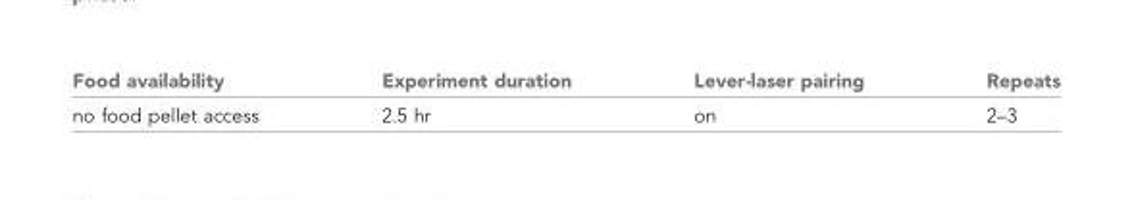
<table><thead><tr><td>Food availability</td><td>Experiment duration</td><td>Lever-laser pairing</td><td>Repeats</td></tr></thead><tbody><tr><td>no food pellet access</td><td>2.5 hr</td><td>on</td><td>2–3</td></tr></tbody></table>